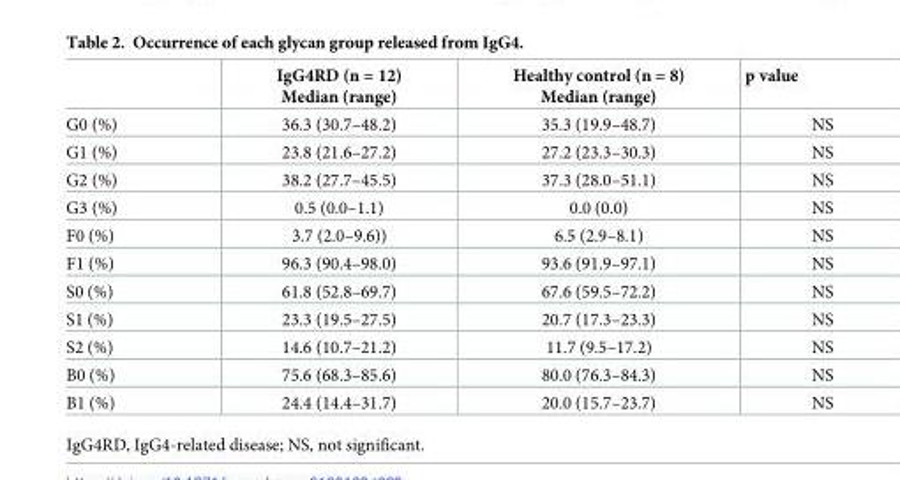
<table><thead><tr><td></td><td>IgG4RD (n = 12) Median (range)</td><td>Healthy control (n = 8) Median (range)</td><td>p value</td></tr></thead><tbody><tr><td>G0 (%)</td><td>36.3 (30.7–48.2)</td><td>35.3 (19.9–48.7)</td><td>NS</td></tr><tr><td>G1 (%)</td><td>23.8 (21.6–27.2)</td><td>27.2 (23.3–30.3)</td><td>NS</td></tr><tr><td>G2 (%)</td><td>38.2 (27.7–45.5)</td><td>37.3 (28.0–51.1)</td><td>NS</td></tr><tr><td>G3 (%)</td><td>0.5 (0.0–1.1)</td><td>0.0 (0.0)</td><td>NS</td></tr><tr><td>F0 (%)</td><td>3.7 (2.0–9.6))</td><td>6.5 (2.9–8.1)</td><td>NS</td></tr><tr><td>F1 (%)</td><td>96.3 (90.4–98.0)</td><td>93.6 (91.9–97.1)</td><td>NS</td></tr><tr><td>S0 (%)</td><td>61.8 (52.8–69.7)</td><td>67.6 (59.5–72.2)</td><td>NS</td></tr><tr><td>S1 (%)</td><td>23.3 (19.5–27.5)</td><td>20.7 (17.3–23.3)</td><td>NS</td></tr><tr><td>S2 (%)</td><td>14.6 (10.7–21.2)</td><td>11.7 (9.5–17.2)</td><td>NS</td></tr><tr><td>B0 (%)</td><td>75.6 (68.3–85.6)</td><td>80.0 (76.3–84.3)</td><td>NS</td></tr><tr><td>B1 (%)</td><td>24.4 (14.4–31.7)</td><td>20.0 (15.7–23.7)</td><td>NS</td></tr></tbody></table>